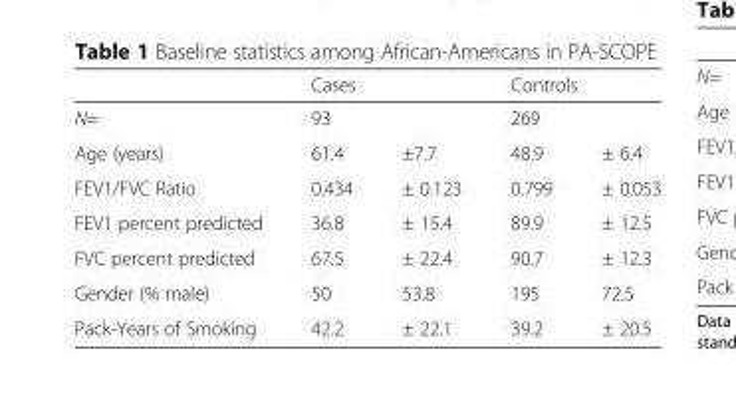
<table><thead><tr><td rowspan="2">N=</td><td colspan="2">Cases</td><td colspan="2">Controls</td></tr><tr><td>93</td><td></td><td>269</td><td></td></tr></thead><tbody><tr><td>Age (years)</td><td>61.4</td><td>±7.7</td><td>48.9</td><td>± 6.4</td></tr><tr><td>FEV1/FVC Ratio</td><td>0.434</td><td>± 0.123</td><td>0.799</td><td>± 0.053</td></tr><tr><td>FEV1 percent predicted</td><td>36.8</td><td>± 15.4</td><td>89.9</td><td>± 12.5</td></tr><tr><td>FVC percent predicted</td><td>67.5</td><td>± 22.4</td><td>90.7</td><td>± 12.3</td></tr><tr><td>Gender (% male)</td><td>50</td><td>53.8</td><td>195</td><td>72.5</td></tr><tr><td>Pack-Years of Smoking</td><td>42.2</td><td>± 22.1</td><td>39.2</td><td>± 20.5</td></tr></tbody></table>